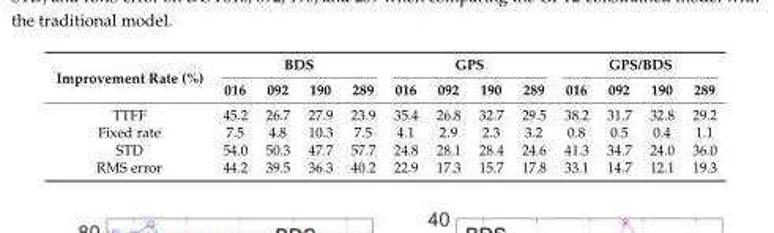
<table><thead><tr><td rowspan="2">Improvement Rate (%)</td><td colspan="4">BDS</td><td colspan="4">GPS</td><td colspan="4">GPS/BDS</td></tr><tr><td>016</td><td>092</td><td>190</td><td>289</td><td>016</td><td>092</td><td>190</td><td>289</td><td>016</td><td>092</td><td>190</td><td>289</td></tr></thead><tbody><tr><td>TTFF</td><td>45.2</td><td>26.7</td><td>27.9</td><td>23.9</td><td>35.4</td><td>26.8</td><td>32.7</td><td>29.5</td><td>38.2</td><td>31.7</td><td>32.8</td><td>29.2</td></tr><tr><td>Fixed rate</td><td>7.5</td><td>4.8</td><td>10.3</td><td>7.5</td><td>4.1</td><td>2.9</td><td>2.3</td><td>3.2</td><td>0.8</td><td>0.5</td><td>0.4</td><td>1.1</td></tr><tr><td>STD</td><td>54.0</td><td>50.3</td><td>47.7</td><td>57.7</td><td>24.8</td><td>28.1</td><td>28.4</td><td>24.6</td><td>41.3</td><td>34.7</td><td>24.0</td><td>36.0</td></tr><tr><td>RMS error</td><td>44.2</td><td>39.5</td><td>36.3</td><td>40.2</td><td>22.9</td><td>17.3</td><td>15.7</td><td>17.8</td><td>33.1</td><td>14.7</td><td>12.1</td><td>19.3</td></tr></tbody></table>